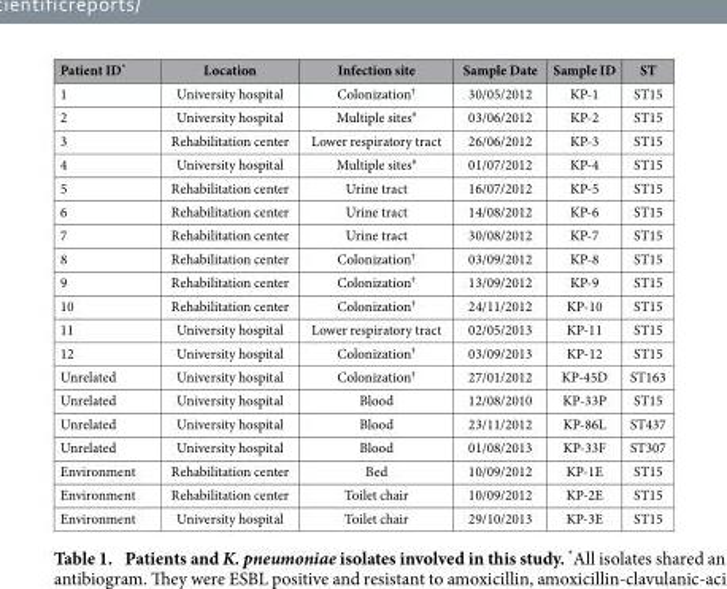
<table><thead><tr><td>Patient ID*</td><td>Location</td><td>Infection site</td><td>Sample Date</td><td>Sample ID</td><td>ST</td></tr></thead><tbody><tr><td>1</td><td>University hospital</td><td>Colonization†</td><td>30/05/2012</td><td>KP-1</td><td>ST15</td></tr><tr><td>2</td><td>University hospital</td><td>Multiple sites#</td><td>03/06/2012</td><td>KP-2</td><td>ST15</td></tr><tr><td>3</td><td>Rehabilitation center</td><td>Lower respiratory tract</td><td>26/06/2012</td><td>KP-3</td><td>ST15</td></tr><tr><td>4</td><td>University hospital</td><td>Multiple sites#</td><td>01/07/2012</td><td>KP-4</td><td>ST15</td></tr><tr><td>5</td><td>Rehabilitation center</td><td>Urine tract</td><td>16/07/2012</td><td>KP-5</td><td>ST15</td></tr><tr><td>6</td><td>Rehabilitation center</td><td>Urine tract</td><td>14/08/2012</td><td>KP-6</td><td>ST15</td></tr><tr><td>7</td><td>Rehabilitation center</td><td>Urine tract</td><td>30/08/2012</td><td>KP-7</td><td>ST15</td></tr><tr><td>8</td><td>Rehabilitation center</td><td>Colonization†</td><td>03/09/2012</td><td>KP-8</td><td>ST15</td></tr><tr><td>9</td><td>Rehabilitation center</td><td>Colonization†</td><td>13/09/2012</td><td>KP-9</td><td>ST15</td></tr><tr><td>10</td><td>Rehabilitation center</td><td>Colonization†</td><td>24/11/2012</td><td>KP-10</td><td>ST15</td></tr><tr><td>11</td><td>University hospital</td><td>Lower respiratory tract</td><td>02/05/2013</td><td>KP-11</td><td>ST15</td></tr><tr><td>12</td><td>University hospital</td><td>Colonization†</td><td>03/09/2013</td><td>KP-12</td><td>ST15</td></tr><tr><td>Unrelated</td><td>University hospital</td><td>Colonization†</td><td>27/01/2012</td><td>KP-45D</td><td>ST163</td></tr><tr><td>Unrelated</td><td>University hospital</td><td>Blood</td><td>12/08/2010</td><td>KP-33P</td><td>ST15</td></tr><tr><td>Unrelated</td><td>University hospital</td><td>Blood</td><td>23/11/2012</td><td>KP-86L</td><td>ST437</td></tr><tr><td>Unrelated</td><td>University hospital</td><td>Blood</td><td>01/08/2013</td><td>KP-33F</td><td>ST307</td></tr><tr><td>Environment</td><td>Rehabilitation center</td><td>Bed</td><td>10/09/2012</td><td>KP-1E</td><td>ST15</td></tr><tr><td>Environment</td><td>Rehabilitation center</td><td>Toilet chair</td><td>10/09/2012</td><td>KP-2E</td><td>ST15</td></tr><tr><td>Environment</td><td>University hospital</td><td>Toilet chair</td><td>29/10/2013</td><td>KP-3E</td><td>ST15</td></tr></tbody></table>